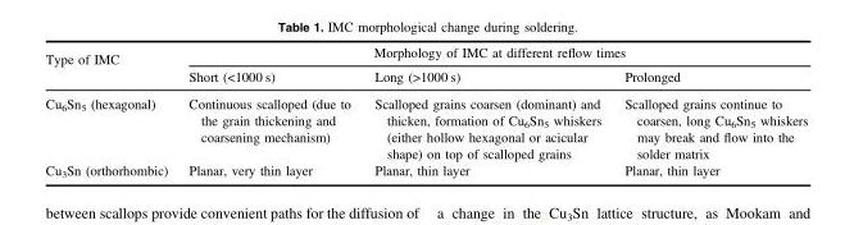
<table><thead><tr><td rowspan="2">Type of IMC</td><td colspan="3">Morphology of IMC at different reflow times</td></tr><tr><td>Short (&lt;1000 s)</td><td>Long (&gt;1000 s)</td><td>Prolonged</td></tr></thead><tbody><tr><td>Cu<sub>6</sub>Sn<sub>5</sub> (hexagonal)</td><td>Continuous scalloped (due to the grain thickening and coarsening mechanism)</td><td>Scalloped grains coarsen (dominant) and thicken, formation of Cu<sub>6</sub>Sn<sub>5</sub> whiskers (either hollow hexagonal or acicular shape) on top of scalloped grains</td><td>Scalloped grains continue to coarsen, long Cu<sub>6</sub>Sn<sub>5</sub> whiskers may break and flow into the solder matrix</td></tr><tr><td>Cu<sub>3</sub>Sn (orthorhombic)</td><td>Planar, very thin layer</td><td>Planar, thin layer</td><td>Planar, thin layer</td></tr></tbody></table>